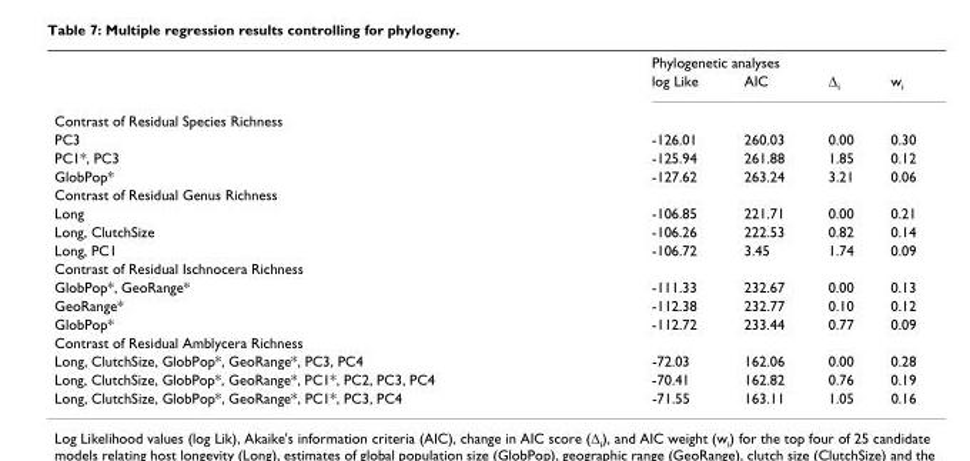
<table><thead><tr><td rowspan="2"></td><td colspan="4">Phylogenetic analyses</td></tr><tr><td>log Like</td><td>AIC</td><td>Δ<sub>i</sub></td><td>w<sub>i</sub></td></tr></thead><tbody><tr><td colspan="5">Contrast of Residual Species Richness</td></tr><tr><td>PC3</td><td>-126.01</td><td>260.03</td><td>0.00</td><td>0.30</td></tr><tr><td>PC1*, PC3</td><td>-125.94</td><td>261.88</td><td>1.85</td><td>0.12</td></tr><tr><td>GlobPop*</td><td>-127.62</td><td>263.24</td><td>3.21</td><td>0.06</td></tr><tr><td colspan="5">Contrast of Residual Genus Richness</td></tr><tr><td>Long</td><td>-106.85</td><td>221.71</td><td>0.00</td><td>0.21</td></tr><tr><td>Long, ClutchSize</td><td>-106.26</td><td>222.53</td><td>0.82</td><td>0.14</td></tr><tr><td>Long, PC1</td><td>-106.72</td><td>3.45</td><td>1.74</td><td>0.09</td></tr><tr><td colspan="5">Contrast of Residual Ischnocera Richness</td></tr><tr><td>GlobPop*, GeoRange*</td><td>-111.33</td><td>232.67</td><td>0.00</td><td>0.13</td></tr><tr><td>GeoRange*</td><td>-112.38</td><td>232.77</td><td>0.10</td><td>0.12</td></tr><tr><td>GlobPop*</td><td>-112.72</td><td>233.44</td><td>0.77</td><td>0.09</td></tr><tr><td colspan="5">Contrast of Residual Amblycera Richness</td></tr><tr><td>Long, ClutchSize, GlobPop*, GeoRange*, PC3, PC4</td><td>-72.03</td><td>162.06</td><td>0.00</td><td>0.28</td></tr><tr><td>Long, ClutchSize, GlobPop*, GeoRange*, PC1*, PC2, PC3, PC4</td><td>-70.41</td><td>162.82</td><td>0.76</td><td>0.19</td></tr><tr><td>Long, ClutchSize, GlobPop*, GeoRange*, PC1*, PC3, PC4</td><td>-71.55</td><td>163.11</td><td>1.05</td><td>0.16</td></tr></tbody></table>